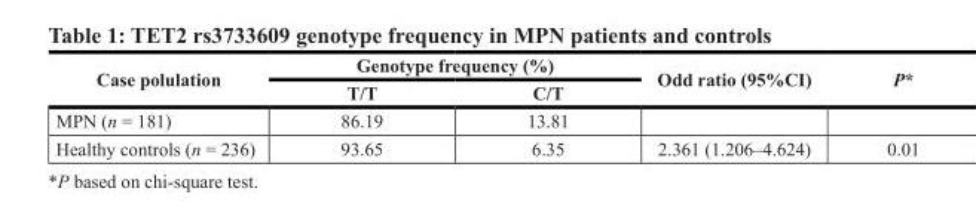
<table><thead><tr><td rowspan="2">Case polulation</td><td colspan="2">Genotype frequency (%)</td><td rowspan="2">Odd ratio (95%CI)</td><td rowspan="2">P﹡</td></tr><tr><td>T/T</td><td>C/T</td></tr></thead><tbody><tr><td>MPN (n = 181)</td><td>86.19</td><td>13.81</td><td></td><td></td></tr><tr><td>Healthy controls (n = 236)</td><td>93.65</td><td>6.35</td><td>2.361 (1.206–4.624)</td><td>0.01</td></tr></tbody></table>